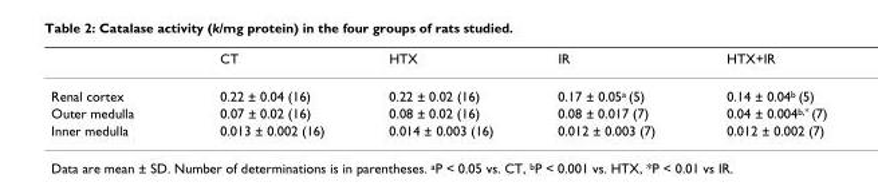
<table><thead><tr><td></td><td>CT</td><td>HTX</td><td>IR</td><td>HTX+IR</td></tr></thead><tbody><tr><td>Renal cortex</td><td>0.22 ± 0.04 (16)</td><td>0.22 ± 0.02 (16)</td><td>0.17 ± 0.05a (5)</td><td>0.14 ± 0.04b (5)</td></tr><tr><td>Outer medulla</td><td>0.07 ± 0.02 (16)</td><td>0.08 ± 0.02 (16)</td><td>0.08 ± 0.017 (7)</td><td>0.04 ± 0.004b,* (7)</td></tr><tr><td>Inner medulla</td><td>0.013 ± 0.002 (16)</td><td>0.014 ± 0.003 (16)</td><td>0.012 ± 0.003 (7)</td><td>0.012 ± 0.002 (7)</td></tr></tbody></table>